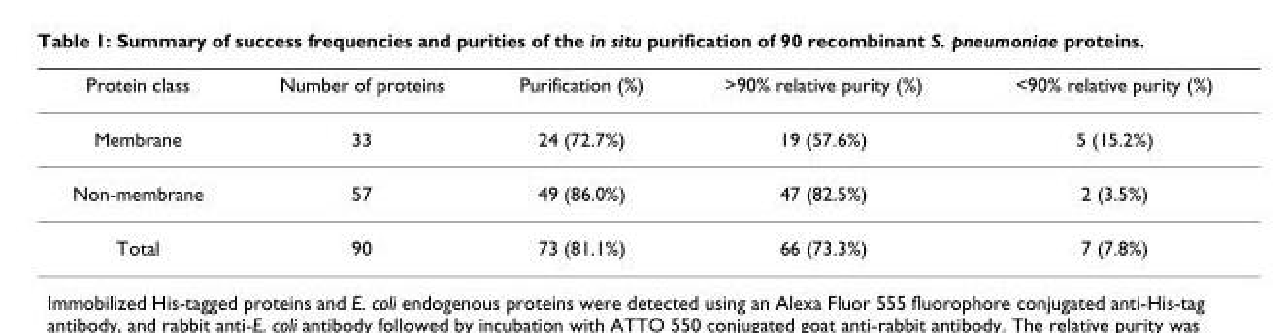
<table><thead><tr><td>Protein class</td><td>Number of proteins</td><td>Purification (%)</td><td>&gt;90% relative purity (%)</td><td>&lt;90% relative purity (%)</td></tr></thead><tbody><tr><td>Membrane</td><td>33</td><td>24 (72.7%)</td><td>19 (57.6%)</td><td>5 (15.2%)</td></tr><tr><td>Non-membrane</td><td>57</td><td>49 (86.0%)</td><td>47 (82.5%)</td><td>2 (3.5%)</td></tr><tr><td>Total</td><td>90</td><td>73 (81.1%)</td><td>66 (73.3%)</td><td>7 (7.8%)</td></tr></tbody></table>